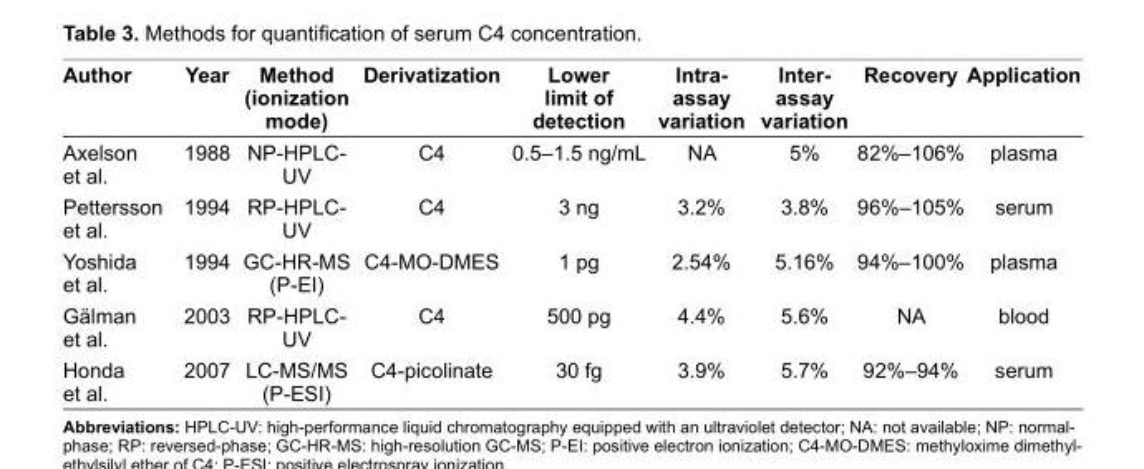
<table><thead><tr><td>Author</td><td>Year</td><td>Method (ionization mode)</td><td>Derivatization</td><td>Lower limit of detection</td><td>Intra- assay variation</td><td>Inter- assay variation</td><td>Recovery</td><td>Application</td></tr></thead><tbody><tr><td>Axelson et al.</td><td>1988</td><td>NP-HPLC- UV</td><td>C4</td><td>0.5–1.5 ng/mL</td><td>NA</td><td>5%</td><td>82%–106%</td><td>plasma</td></tr><tr><td>Pettersson et al.</td><td>1994</td><td>RP-HPLC- UV</td><td>C4</td><td>3 ng</td><td>3.2%</td><td>3.8%</td><td>96%–105%</td><td>serum</td></tr><tr><td>Yoshida et al.</td><td>1994</td><td>GC-HR-MS (P-EI)</td><td>C4-MO-DMES</td><td>1 pg</td><td>2.54%</td><td>5.16%</td><td>94%–100%</td><td>plasma</td></tr><tr><td>Gälman et al.</td><td>2003</td><td>RP-HPLC- UV</td><td>C4</td><td>500 pg</td><td>4.4%</td><td>5.6%</td><td>NA</td><td>blood</td></tr><tr><td>Honda et al.</td><td>2007</td><td>LC-MS/MS (P-ESI)</td><td>C4-picolinate</td><td>30 fg</td><td>3.9%</td><td>5.7%</td><td>92%–94%</td><td>serum</td></tr></tbody></table>